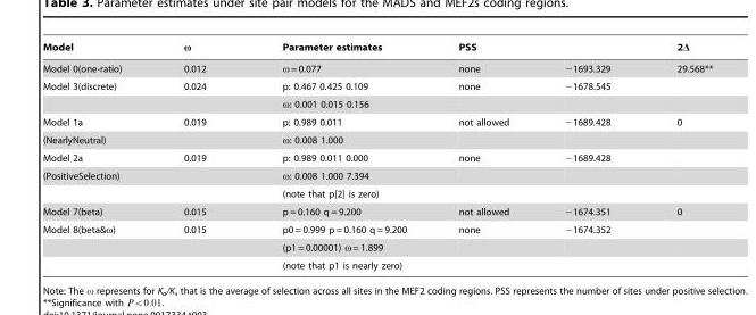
<table><thead><tr><td>Model</td><td>ω</td><td>Parameter estimates</td><td>PSS</td><td></td><td>2Δ</td></tr></thead><tbody><tr><td>Model 0(one-ratio)</td><td>0.012</td><td>ω = 0.077</td><td>none</td><td>−1693.329</td><td>29.568**</td></tr><tr><td rowspan="2">Model 3(discrete)</td><td>0.024</td><td>p: 0.467 0.425 0.109</td><td>none</td><td>−1678.545</td><td></td></tr><tr><td></td><td>ω: 0.001 0.015 0.156</td><td></td><td></td><td></td></tr><tr><td>Model 1a</td><td>0.019</td><td>p: 0.989 0.011</td><td>not allowed</td><td>−1689.428</td><td>0</td></tr><tr><td>(NearlyNeutral)</td><td></td><td>ω: 0.008 1.000</td><td></td><td></td><td></td></tr><tr><td>Model 2a</td><td>0.019</td><td>p: 0.989 0.011 0.000</td><td>none</td><td>−1689.428</td><td></td></tr><tr><td rowspan="2">(PositiveSelection)</td><td></td><td>ω: 0.008 1.000 7.394</td><td></td><td></td><td></td></tr><tr><td></td><td>(note that p[2] is zero)</td><td></td><td></td><td></td></tr><tr><td>Model 7(beta)</td><td>0.015</td><td>p = 0.160 q = 9.200</td><td>not allowed</td><td>−1674.351</td><td>0</td></tr><tr><td rowspan="3">Model 8(beta&amp;ω)</td><td>0.015</td><td>p0 = 0.999 p = 0.160 q = 9.200</td><td>none</td><td>−1674.352</td><td></td></tr><tr><td></td><td>(p1 = 0.00001) ω = 1.899</td><td></td><td></td><td></td></tr><tr><td></td><td>(note that p1 is nearly zero)</td><td></td><td></td><td></td></tr></tbody></table>